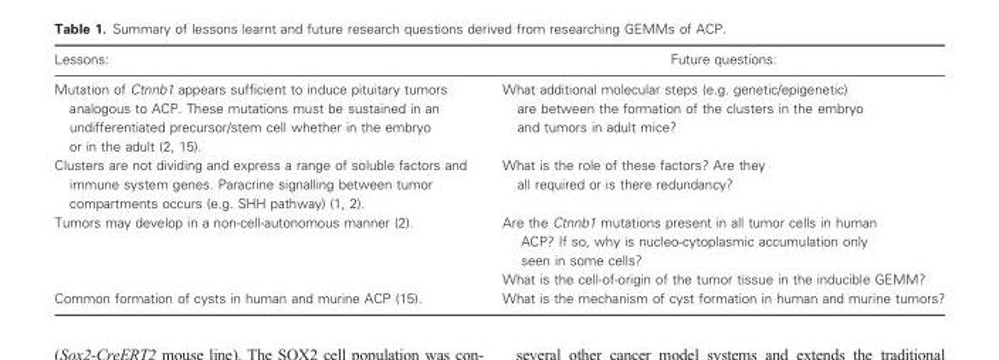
<table><thead><tr><td>Lessons:</td><td>Future questions:</td></tr></thead><tbody><tr><td>Mutation of Ctnnb1 appears sufficient to induce pituitary tumors analogous to ACP. These mutations must be sustained in an undifferentiated precursor/stem cell whether in the embryo or in the adult (2, 15).</td><td>What additional molecular steps (e.g. genetic/epigenetic) are between the formation of the clusters in the embryo and tumors in adult mice?</td></tr><tr><td>Clusters are not dividing and express a range of soluble factors and immune system genes. Paracrine signalling between tumor compartments occurs (e.g. SHH pathway) (1, 2).</td><td>What is the role of these factors? Are they all required or is there redundancy?</td></tr><tr><td>Tumors may develop in a non-cell-autonomous manner (2).</td><td>Are the Ctnnb1 mutations present in all tumor cells in human ACP? If so, why is nucleo-cytoplasmic accumulation only seen in some cells? What is the cell-of-origin of the tumor tissue in the inducible GEMM?</td></tr><tr><td>Common formation of cysts in human and murine ACP (15).</td><td>What is the mechanism of cyst formation in human and murine tumors?</td></tr></tbody></table>